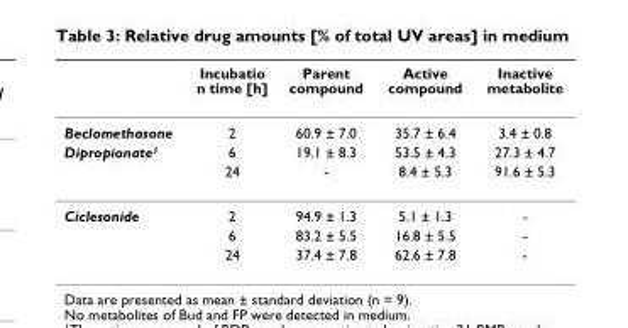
<table><thead><tr><td></td><td>Incubatio n time [h]</td><td>Parent compound</td><td>Active compound</td><td>Inactive metabolite</td></tr></thead><tbody><tr><td>Beclomethasone</td><td>2</td><td>60.9 ± 7.0</td><td>35.7 ± 6.4</td><td>3.4 ± 0.8</td></tr><tr><td rowspan="2">Dipropionate<sup>1</sup></td><td>6</td><td>19.1 ± 8.3</td><td>53.5 ± 4.3</td><td>27.3 ± 4.7</td></tr><tr><td>24</td><td>-</td><td>8.4 ± 5.3</td><td>91.6 ± 5.3</td></tr><tr><td rowspan="3">Ciclesonide</td><td>2</td><td>94.9 ± 1.3</td><td>5.1 ± 1.3</td><td>-</td></tr><tr><td>6</td><td>83.2 ± 5.5</td><td>16.8 ± 5.5</td><td>-</td></tr><tr><td>24</td><td>37.4 ± 7.8</td><td>62.6 ± 7.8</td><td>-</td></tr></tbody></table>